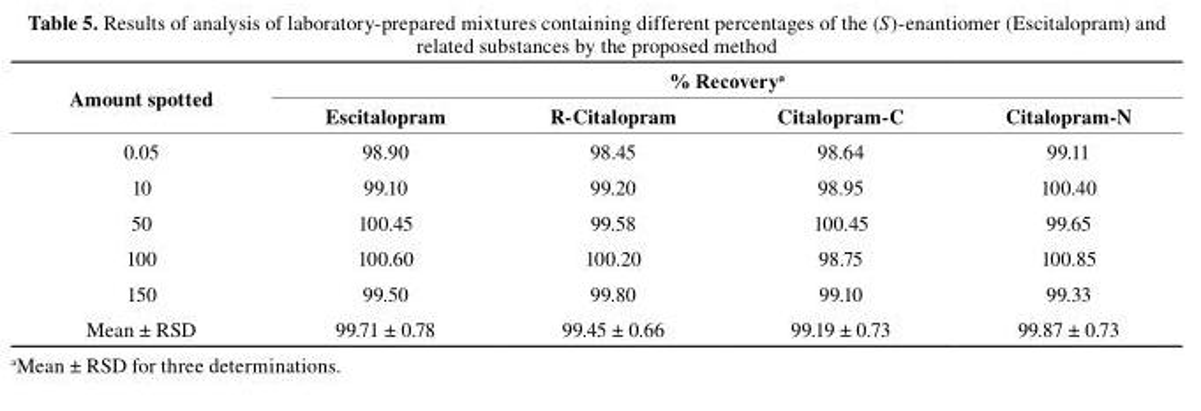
<table><thead><tr><td rowspan="2">Amount spotted</td><td colspan="4">% Recovery<sup>a</sup></td></tr><tr><td>Escitalopram</td><td>r-citalopram</td><td>citalopram-c</td><td>citalopram-N</td></tr></thead><tbody><tr><td>0.05</td><td>98.90</td><td>98.45</td><td>98.64</td><td>99.11</td></tr><tr><td>10</td><td>99.10</td><td>99.20</td><td>98.95</td><td>100.40</td></tr><tr><td>50</td><td>100.45</td><td>99.58</td><td>100.45</td><td>99.65</td></tr><tr><td>100</td><td>100.60</td><td>100.20</td><td>98.75</td><td>100.85</td></tr><tr><td>150</td><td>99.50</td><td>99.80</td><td>99.10</td><td>99.33</td></tr><tr><td>Mean ± RSD</td><td>99.71 ± 0.78</td><td>99.45 ± 0.66</td><td>99.19 ± 0.73</td><td>99.87 ± 0.73</td></tr></tbody></table>